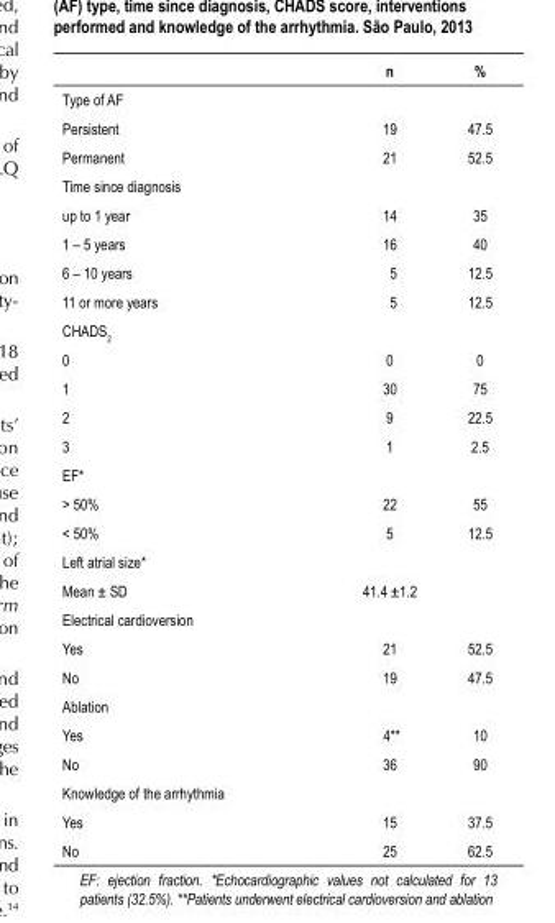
<table><thead><tr><td></td><td>n</td><td>%</td></tr></thead><tbody><tr><td colspan="3">Type of AF</td></tr><tr><td>Persistent</td><td>19</td><td>47.5</td></tr><tr><td>Permanent</td><td>21</td><td>52.5</td></tr><tr><td colspan="3">Time since diagnosis</td></tr><tr><td>up to 1 year</td><td>14</td><td>35</td></tr><tr><td>1 – 5 years</td><td>16</td><td>40</td></tr><tr><td>6 – 10 years</td><td>5</td><td>12.5</td></tr><tr><td>11 or more years</td><td>5</td><td>12.5</td></tr><tr><td colspan="3">CHADS<sub>2</sub></td></tr><tr><td>0</td><td>0</td><td>0</td></tr><tr><td>1</td><td>30</td><td>75</td></tr><tr><td>2</td><td>9</td><td>22.5</td></tr><tr><td>3</td><td>1</td><td>2.5</td></tr><tr><td colspan="3">EF*</td></tr><tr><td>&gt; 50%</td><td>22</td><td>55</td></tr><tr><td>&lt; 50%</td><td>5</td><td>12.5</td></tr><tr><td colspan="3">Left atrial size*</td></tr><tr><td>Mean ± SD</td><td>41.4 ±1.2</td><td></td></tr><tr><td colspan="3">Electrical cardioversion</td></tr><tr><td>Yes</td><td>21</td><td>52.5</td></tr><tr><td>No</td><td>19</td><td>47.5</td></tr><tr><td colspan="3">Ablation</td></tr><tr><td>Yes</td><td>4**</td><td>10</td></tr><tr><td>No</td><td>36</td><td>90</td></tr><tr><td colspan="3">Knowledge of the arrhythmia</td></tr><tr><td>Yes</td><td>15</td><td>37.5</td></tr><tr><td>No</td><td>25</td><td>62.5</td></tr></tbody></table>